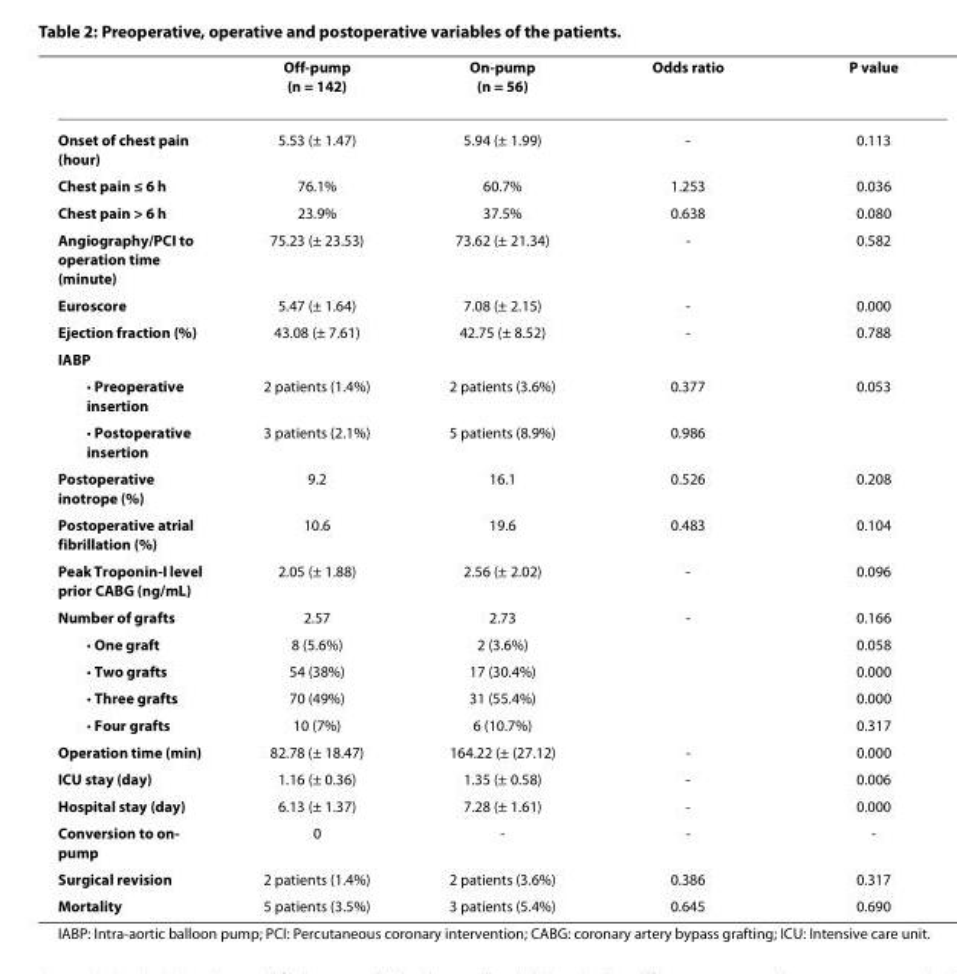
<table><thead><tr><td></td><td>Off-pump (n = 142)</td><td>On-pump (n = 56)</td><td>Odds ratio</td><td>P value</td></tr></thead><tbody><tr><td>Onset of chest pain (hour)</td><td>5.53 (± 1.47)</td><td>5.94 (± 1.99)</td><td>-</td><td>0.113</td></tr><tr><td>Chest pain ≤ 6 h</td><td>76.1%</td><td>60.7%</td><td>1.253</td><td>0.036</td></tr><tr><td>Chest pain &gt; 6 h</td><td>23.9%</td><td>37.5%</td><td>0.638</td><td>0.080</td></tr><tr><td>Angiography/PCI to operation time (minute)</td><td>75.23 (± 23.53)</td><td>73.62 (± 21.34)</td><td>-</td><td>0.582</td></tr><tr><td>Euroscore</td><td>5.47 (± 1.64)</td><td>7.08 (± 2.15)</td><td>-</td><td>0.000</td></tr><tr><td>Ejection fraction (%)</td><td>43.08 (± 7.61)</td><td>42.75 (± 8.52)</td><td>-</td><td>0.788</td></tr><tr><td colspan="5">IABP</td></tr><tr><td>• Preoperative insertion</td><td>2 patients (1.4%)</td><td>2 patients (3.6%)</td><td>0.377</td><td>0.053</td></tr><tr><td>• Postoperative insertion</td><td>3 patients (2.1%)</td><td>5 patients (8.9%)</td><td>0.986</td><td></td></tr><tr><td>Postoperative inotrope (%)</td><td>9.2</td><td>16.1</td><td>0.526</td><td>0.208</td></tr><tr><td>Postoperative atrial fibrillation (%)</td><td>10.6</td><td>19.6</td><td>0.483</td><td>0.104</td></tr><tr><td>Peak Troponin-I level prior CABG (ng/mL)</td><td>2.05 (± 1.88)</td><td>2.56 (± 2.02)</td><td>-</td><td>0.096</td></tr><tr><td>Number of grafts</td><td>2.57</td><td>2.73</td><td>-</td><td>0.166</td></tr><tr><td>• One graft</td><td>8 (5.6%)</td><td>2 (3.6%)</td><td></td><td>0.058</td></tr><tr><td>• Two grafts</td><td>54 (38%)</td><td>17 (30.4%)</td><td></td><td>0.000</td></tr><tr><td>• Three grafts</td><td>70 (49%)</td><td>31 (55.4%)</td><td></td><td>0.000</td></tr><tr><td>• Four grafts</td><td>10 (7%)</td><td>6 (10.7%)</td><td></td><td>0.317</td></tr><tr><td>Operation time (min)</td><td>82.78 (± 18.47)</td><td>164.22 (± (27.12)</td><td>-</td><td>0.000</td></tr><tr><td>ICU stay (day)</td><td>1.16 (± 0.36)</td><td>1.35 (± 0.58)</td><td>-</td><td>0.006</td></tr><tr><td>Hospital stay (day)</td><td>6.13 (± 1.37)</td><td>7.28 (± 1.61)</td><td>-</td><td>0.000</td></tr><tr><td>Conversion to on- pump</td><td>0</td><td>-</td><td>-</td><td>-</td></tr><tr><td>Surgical revision</td><td>2 patients (1.4%)</td><td>2 patients (3.6%)</td><td>0.386</td><td>0.317</td></tr><tr><td>Mortality</td><td>5 patients (3.5%)</td><td>3 patients (5.4%)</td><td>0.645</td><td>0.690</td></tr></tbody></table>